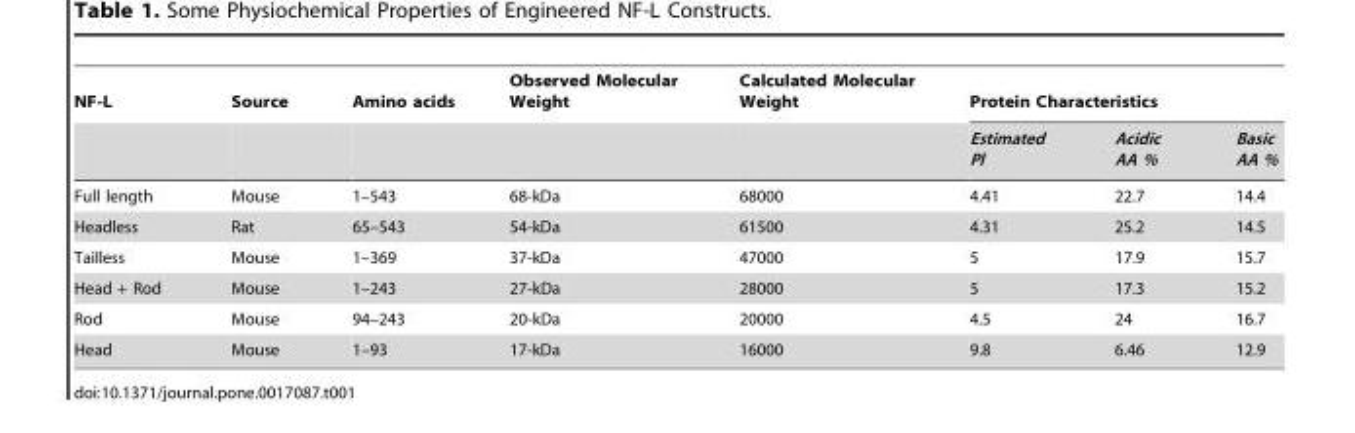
<table><thead><tr><td rowspan="2">NF-L</td><td rowspan="2">Source</td><td rowspan="2">Amino acids</td><td rowspan="2">Observed Molecular Weight</td><td rowspan="2">Calculated Molecular Weight</td><td colspan="3">Protein Characteristics</td></tr><tr><td>Estimated Pl</td><td>Acidic AA %</td><td>Basic AA %</td></tr></thead><tbody><tr><td>Full length</td><td>Mouse</td><td>1–543</td><td>68-kDa</td><td>68000</td><td>4.41</td><td>22.7</td><td>14.4</td></tr><tr><td>Headless</td><td>Rat</td><td>65–543</td><td>54-kDa</td><td>61500</td><td>4.31</td><td>25.2</td><td>14.5</td></tr><tr><td>Tailless</td><td>Mouse</td><td>1–369</td><td>37-kDa</td><td>47000</td><td>5</td><td>17.9</td><td>15.7</td></tr><tr><td>Head + Rod</td><td>Mouse</td><td>1–243</td><td>27-kDa</td><td>28000</td><td>5</td><td>17.3</td><td>15.2</td></tr><tr><td>Rod</td><td>Mouse</td><td>94–243</td><td>20-kDa</td><td>20000</td><td>4.5</td><td>24</td><td>16.7</td></tr><tr><td>Head</td><td>Mouse</td><td>1–93</td><td>17-kDa</td><td>16000</td><td>9.8</td><td>6.46</td><td>12.9</td></tr></tbody></table>